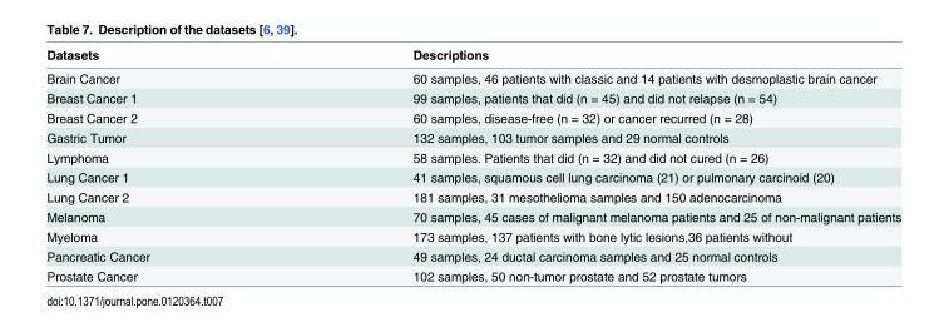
<table><thead><tr><td>Datasets</td><td>Descriptions</td></tr></thead><tbody><tr><td>Brain Cancer</td><td>60 samples, 46 patients with classic and 14 patients with desmoplastic brain cancer</td></tr><tr><td>Breast Cancer 1</td><td>99 samples, patients that did (n = 45) and did not relapse (n = 54)</td></tr><tr><td>Breast Cancer 2</td><td>60 samples, disease-free (n = 32) or cancer recurred (n = 28)</td></tr><tr><td>Gastric Tumor</td><td>132 samples, 103 tumor samples and 29 normal controls</td></tr><tr><td>Lymphoma</td><td>58 samples. Patients that did (n = 32) and did not cured (n = 26)</td></tr><tr><td>Lung Cancer 1</td><td>41 samples, squamous cell lung carcinoma (21) or pulmonary carcinoid (20)</td></tr><tr><td>Lung Cancer 2</td><td>181 samples, 31 mesothelioma samples and 150 adenocarcinoma</td></tr><tr><td>Melanoma</td><td>70 samples, 45 cases of malignant melanoma patients and 25 of non-malignant patients</td></tr><tr><td>Myeloma</td><td>173 samples, 137 patients with bone lytic lesions,36 patients without</td></tr><tr><td>Pancreatic Cancer</td><td>49 samples, 24 ductal carcinoma samples and 25 normal controls</td></tr><tr><td>Prostate Cancer</td><td>102 samples, 50 non-tumor prostate and 52 prostate tumors</td></tr></tbody></table>